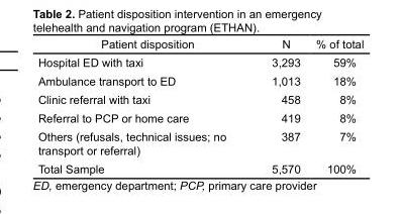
<table><thead><tr><td>Patient disposition</td><td>N</td><td>% of total</td></tr></thead><tbody><tr><td>Hospital ED with taxi</td><td>3,293</td><td>59%</td></tr><tr><td>Ambulance transport to ED</td><td>1,013</td><td>18%</td></tr><tr><td>Clinic referral with taxi</td><td>458</td><td>8%</td></tr><tr><td>Referral to PCP or home care</td><td>419</td><td>8%</td></tr><tr><td>Others (refusals, technical issues; no transport or referral)</td><td>387</td><td>7%</td></tr><tr><td>Total Sample</td><td>5,570</td><td>100%</td></tr></tbody></table>